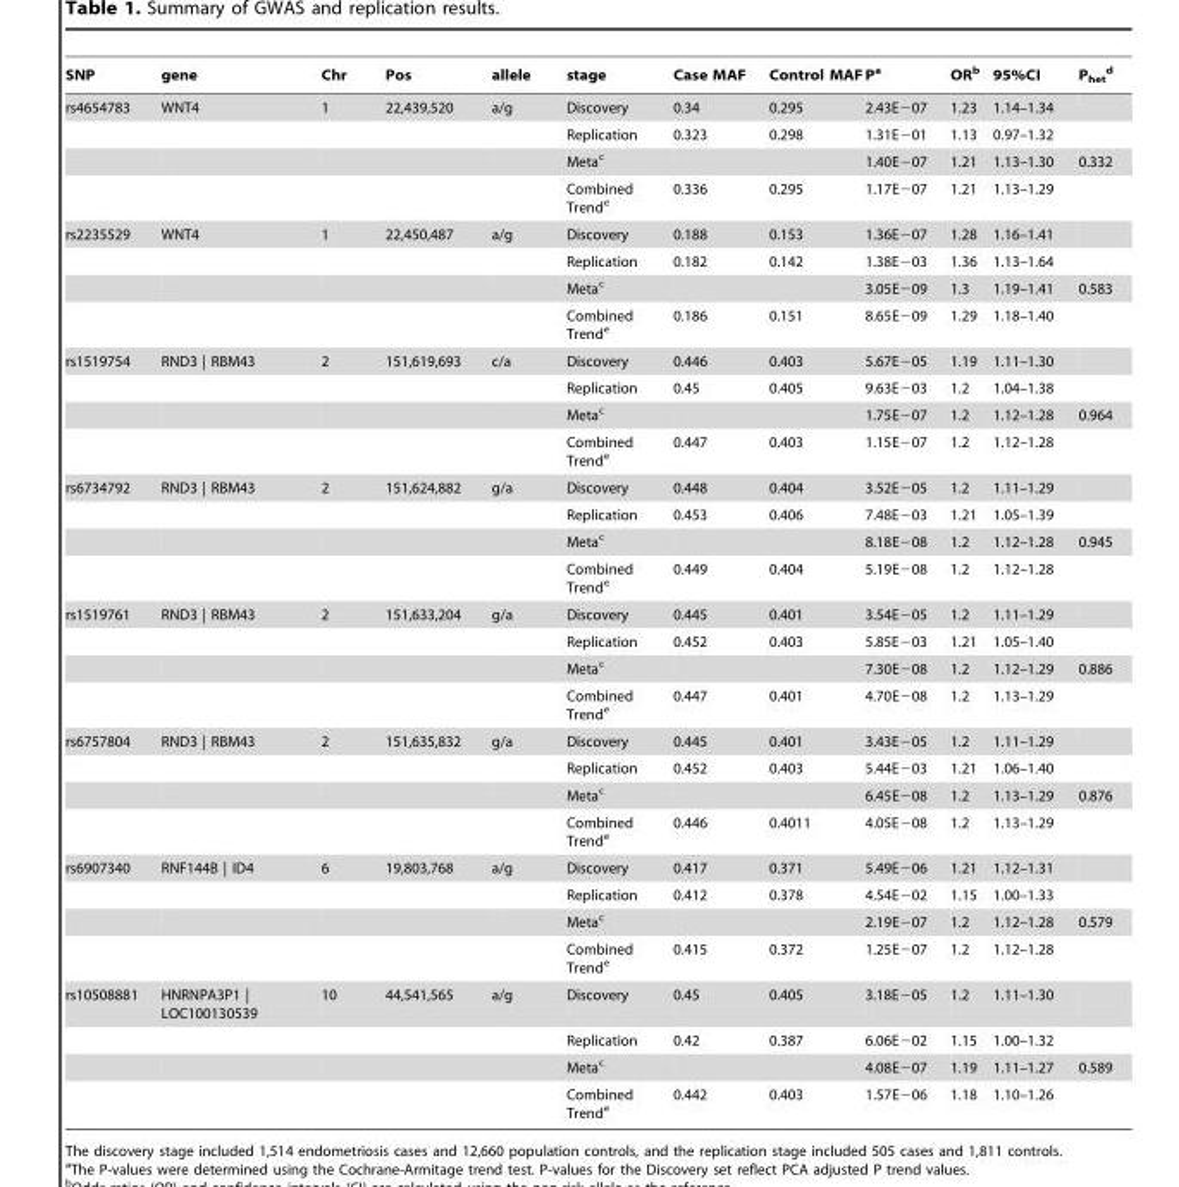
<table><thead><tr><td>SNP</td><td>gene</td><td>Chr</td><td>Pos</td><td>allele</td><td>stage</td><td>Case MAF</td><td>Control MAF</td><td>P<sup>a</sup></td><td>OR<sup>b</sup></td><td>95%CI</td><td>P<sub>het</sub> d</td></tr></thead><tbody><tr><td rowspan="4">rs4654783</td><td>WNT4</td><td>1</td><td>22,439,520</td><td>a/g</td><td>Discovery</td><td>0.34</td><td>0.295</td><td>2.43E−07</td><td>1.23</td><td>1.14–1.34</td><td></td></tr><tr><td></td><td></td><td></td><td></td><td>Replication</td><td>0.323</td><td>0.298</td><td>1.31E−01</td><td>1.13</td><td>0.97–1.32</td><td></td></tr><tr><td></td><td></td><td></td><td></td><td>Meta<sup>c</sup></td><td></td><td></td><td>1.40E−07</td><td>1.21</td><td>1.13–1.30</td><td>0.332</td></tr><tr><td></td><td></td><td></td><td></td><td>Combined Trend<sup>e</sup></td><td>0.336</td><td>0.295</td><td>1.17E−07</td><td>1.21</td><td>1.13–1.29</td><td></td></tr><tr><td rowspan="4">rs2235529</td><td>WNT4</td><td>1</td><td>22,450,487</td><td>a/g</td><td>Discovery</td><td>0.188</td><td>0.153</td><td>1.36E−07</td><td>1.28</td><td>1.16–1.41</td><td></td></tr><tr><td></td><td></td><td></td><td></td><td>Replication</td><td>0.182</td><td>0.142</td><td>1.38E−03</td><td>1.36</td><td>1.13–1.64</td><td></td></tr><tr><td></td><td></td><td></td><td></td><td>Meta<sup>c</sup></td><td></td><td></td><td>3.05E−09</td><td>1.3</td><td>1.19–1.41</td><td>0.583</td></tr><tr><td></td><td></td><td></td><td></td><td>Combined Trend<sup>e</sup></td><td>0.186</td><td>0.151</td><td>8.65E−09</td><td>1.29</td><td>1.18–1.40</td><td></td></tr><tr><td rowspan="4">rs1519754</td><td>RND3 | RBM43</td><td>2</td><td>151,619,693</td><td>c/a</td><td>Discovery</td><td>0.446</td><td>0.403</td><td>5.67E−05</td><td>1.19</td><td>1.11–1.30</td><td></td></tr><tr><td></td><td></td><td></td><td></td><td>Replication</td><td>0.45</td><td>0.405</td><td>9.63E−03</td><td>1.2</td><td>1.04–1.38</td><td></td></tr><tr><td></td><td></td><td></td><td></td><td>Meta<sup>c</sup></td><td></td><td></td><td>1.75E−07</td><td>1.2</td><td>1.12–1.28</td><td>0.964</td></tr><tr><td></td><td></td><td></td><td></td><td>Combined Trend<sup>e</sup></td><td>0.447</td><td>0.403</td><td>1.15E−07</td><td>1.2</td><td>1.12–1.28</td><td></td></tr><tr><td rowspan="4">rs6734792</td><td>RND3 | RBM43</td><td>2</td><td>151,624,882</td><td>g/a</td><td>Discovery</td><td>0.448</td><td>0.404</td><td>3.52E−05</td><td>1.2</td><td>1.11–1.29</td><td></td></tr><tr><td></td><td></td><td></td><td></td><td>Replication</td><td>0.453</td><td>0.406</td><td>7.48E−03</td><td>1.21</td><td>1.05–1.39</td><td></td></tr><tr><td></td><td></td><td></td><td></td><td>Meta<sup>c</sup></td><td></td><td></td><td>8.18E−08</td><td>1.2</td><td>1.12–1.28</td><td>0.945</td></tr><tr><td></td><td></td><td></td><td></td><td>Combined Trend<sup>e</sup></td><td>0.449</td><td>0.404</td><td>5.19E−08</td><td>1.2</td><td>1.12–1.28</td><td></td></tr><tr><td rowspan="4">rs1519761</td><td>RND3 | RBM43</td><td>2</td><td>151,633,204</td><td>g/a</td><td>Discovery</td><td>0.445</td><td>0.401</td><td>3.54E−05</td><td>1.2</td><td>1.11–1.29</td><td></td></tr><tr><td></td><td></td><td></td><td></td><td>Replication</td><td>0.452</td><td>0.403</td><td>5.85E−03</td><td>1.21</td><td>1.05–1.40</td><td></td></tr><tr><td></td><td></td><td></td><td></td><td>Meta<sup>c</sup></td><td></td><td></td><td>7.30E−08</td><td>1.2</td><td>1.12–1.29</td><td>0.886</td></tr><tr><td></td><td></td><td></td><td></td><td>Combined Trend<sup>e</sup></td><td>0.447</td><td>0.401</td><td>4.70E−08</td><td>1.2</td><td>1.13–1.29</td><td></td></tr><tr><td rowspan="4">rs6757804</td><td>RND3 | RBM43</td><td>2</td><td>151,635,832</td><td>g/a</td><td>Discovery</td><td>0.445</td><td>0.401</td><td>3.43E−05</td><td>1.2</td><td>1.11–1.29</td><td></td></tr><tr><td></td><td></td><td></td><td></td><td>Replication</td><td>0.452</td><td>0.403</td><td>5.44E−03</td><td>1.21</td><td>1.06–1.40</td><td></td></tr><tr><td></td><td></td><td></td><td></td><td>Meta<sup>c</sup></td><td></td><td></td><td>6.45E−08</td><td>1.2</td><td>1.13–1.29</td><td>0.876</td></tr><tr><td></td><td></td><td></td><td></td><td>Combined Trend<sup>e</sup></td><td>0.446</td><td>0.4011</td><td>4.05E−08</td><td>1.2</td><td>1.13–1.29</td><td></td></tr><tr><td rowspan="4">rs6907340</td><td>RNF144B | ID4</td><td>6</td><td>19,803,768</td><td>a/g</td><td>Discovery</td><td>0.417</td><td>0.371</td><td>5.49E−06</td><td>1.21</td><td>1.12–1.31</td><td></td></tr><tr><td></td><td></td><td></td><td></td><td>Replication</td><td>0.412</td><td>0.378</td><td>4.54E−02</td><td>1.15</td><td>1.00–1.33</td><td></td></tr><tr><td></td><td></td><td></td><td></td><td>Meta<sup>c</sup></td><td></td><td></td><td>2.19E−07</td><td>1.2</td><td>1.12–1.28</td><td>0.579</td></tr><tr><td></td><td></td><td></td><td></td><td>Combined Trend<sup>e</sup></td><td>0.415</td><td>0.372</td><td>1.25E−07</td><td>1.2</td><td>1.12–1.28</td><td></td></tr><tr><td rowspan="4">rs10508881</td><td>HNRNPA3P1 | LOC100130539</td><td>10</td><td>44,541,565</td><td>a/g</td><td>Discovery</td><td>0.45</td><td>0.405</td><td>3.18E−05</td><td>1.2</td><td>1.11–1.30</td><td></td></tr><tr><td></td><td></td><td></td><td></td><td>Replication</td><td>0.42</td><td>0.387</td><td>6.06E−02</td><td>1.15</td><td>1.00–1.32</td><td></td></tr><tr><td></td><td></td><td></td><td></td><td>Meta<sup>c</sup></td><td></td><td></td><td>4.08E−07</td><td>1.19</td><td>1.11–1.27</td><td>0.589</td></tr><tr><td></td><td></td><td></td><td></td><td>Combined Trend<sup>e</sup></td><td>0.442</td><td>0.403</td><td>1.57E−06</td><td>1.18</td><td>1.10–1.26</td><td></td></tr></tbody></table>